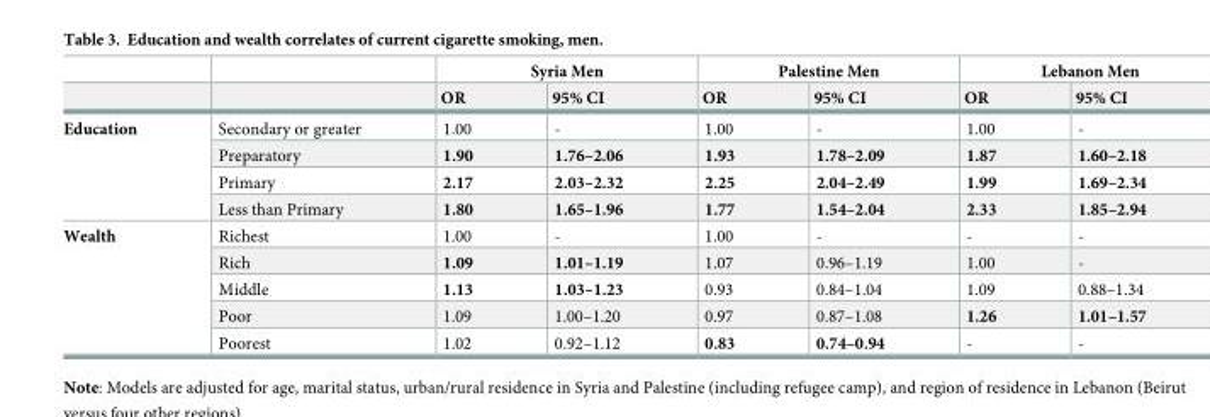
<table><thead><tr><td rowspan="2"></td><td rowspan="2"></td><td colspan="2">Syria Men</td><td colspan="2">Palestine Men</td><td colspan="2">Lebanon Men</td></tr><tr><td>OR</td><td>95% CI</td><td>OR</td><td>95% CI</td><td>OR</td><td>95% CI</td></tr></thead><tbody><tr><td rowspan="4">Education</td><td>Secondary or greater</td><td>1.00</td><td>-</td><td>1.00</td><td>-</td><td>1.00</td><td>-</td></tr><tr><td>Preparatory</td><td>1.90</td><td>1.76–2.06</td><td>1.93</td><td>1.78–2.09</td><td>1.87</td><td>1.60–2.18</td></tr><tr><td>Primary</td><td>2.17</td><td>2.03–2.32</td><td>2.25</td><td>2.04–2.49</td><td>1.99</td><td>1.69–2.34</td></tr><tr><td>Less than Primary</td><td>1.80</td><td>1.65–1.96</td><td>1.77</td><td>1.54–2.04</td><td>2.33</td><td>1.85–2.94</td></tr><tr><td rowspan="5">Wealth</td><td>Richest</td><td>1.00</td><td>-</td><td>1.00</td><td>-</td><td>-</td><td>-</td></tr><tr><td>Rich</td><td>1.09</td><td>1.01–1.19</td><td>1.07</td><td>0.96–1.19</td><td>1.00</td><td>-</td></tr><tr><td>Middle</td><td>1.13</td><td>1.03–1.23</td><td>0.93</td><td>0.84–1.04</td><td>1.09</td><td>0.88–1.34</td></tr><tr><td>Poor</td><td>1.09</td><td>1.00–1.20</td><td>0.97</td><td>0.87–1.08</td><td>1.26</td><td>1.01–1.57</td></tr><tr><td>Poorest</td><td>1.02</td><td>0.92–1.12</td><td>0.83</td><td>0.74–0.94</td><td>-</td><td>-</td></tr></tbody></table>